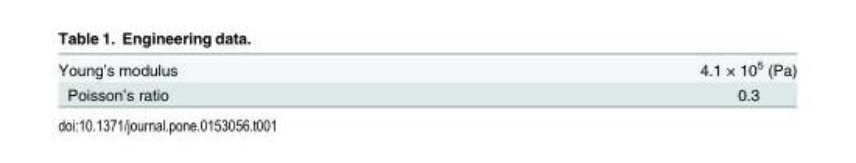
<table><tbody><tr><td>Young’s modulus</td><td>4.1 × 10<sup>5</sup> (Pa)</td></tr><tr><td>Poisson’s ratio</td><td>0.3</td></tr></tbody></table>